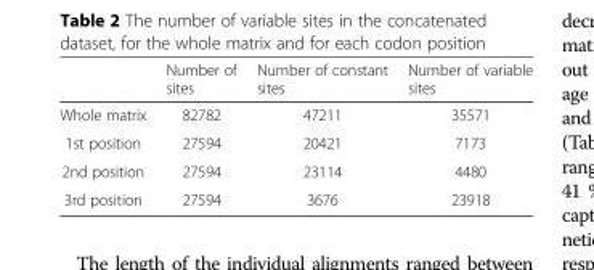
<table><thead><tr><td></td><td>Number of sites</td><td>Number of constant sites</td><td>Number of variable sites</td></tr></thead><tbody><tr><td>Whole matrix</td><td>82782</td><td>47211</td><td>35571</td></tr><tr><td>1st position</td><td>27594</td><td>20421</td><td>7173</td></tr><tr><td>2nd position</td><td>27594</td><td>23114</td><td>4480</td></tr><tr><td>3rd position</td><td>27594</td><td>3676</td><td>23918</td></tr></tbody></table>